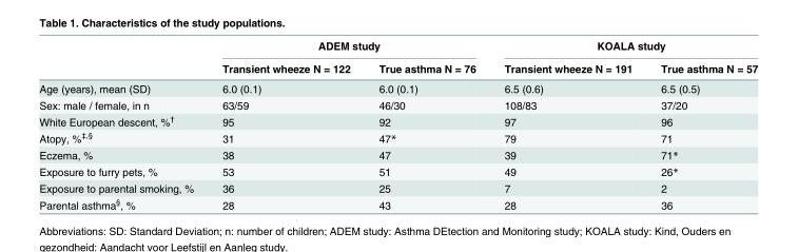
<table><thead><tr><td rowspan="2"></td><td colspan="2">ADEM study</td><td colspan="2">KOALA study</td></tr><tr><td>Transient wheeze N = 122</td><td>True asthma N = 76</td><td>Transient wheeze N = 191</td><td>True asthma N = 57</td></tr></thead><tbody><tr><td>Age (years), mean (SD)</td><td>6.0 (0.1)</td><td>6.0 (0.1)</td><td>6.5 (0.6)</td><td>6.5 (0.5)</td></tr><tr><td>Sex: male / female, in n</td><td>63/59</td><td>46/30</td><td>108/83</td><td>37/20</td></tr><tr><td>White European descent, %<sup>†</sup></td><td>95</td><td>92</td><td>97</td><td>96</td></tr><tr><td>Atopy, %<sup>‡,§</sup></td><td>31</td><td>47*</td><td>79</td><td>71</td></tr><tr><td>Eczema, %</td><td>38</td><td>47</td><td>39</td><td>71*</td></tr><tr><td>Exposure to furry pets, %</td><td>53</td><td>51</td><td>49</td><td>26*</td></tr><tr><td>Exposure to parental smoking, %</td><td>36</td><td>25</td><td>7</td><td>2</td></tr><tr><td>Parental asthma<sup>§</sup>, %</td><td>28</td><td>43</td><td>28</td><td>36</td></tr></tbody></table>